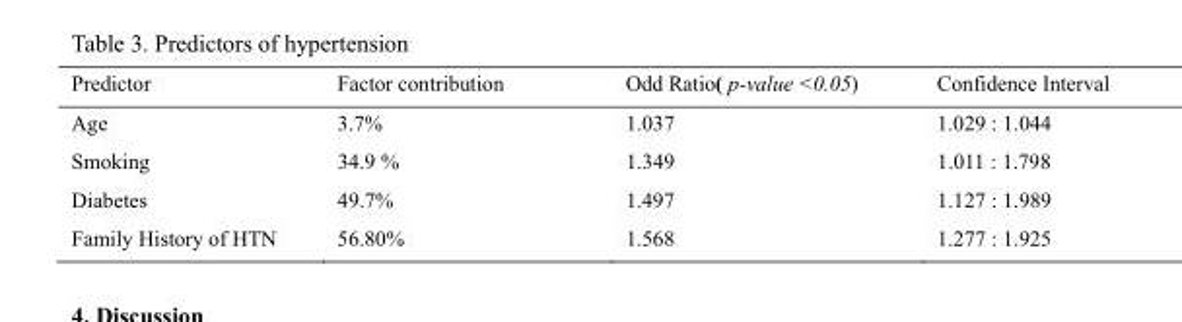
<table><thead><tr><td>Predictor</td><td>Factor contribution</td><td>Odd Ratio( p-value &lt;0.05)</td><td>Confidence Interval</td></tr></thead><tbody><tr><td>Age</td><td>3.7%</td><td>1.037</td><td>1.029 : 1.044</td></tr><tr><td>Smoking</td><td>34.9 %</td><td>1.349</td><td>1.011 : 1.798</td></tr><tr><td>Diabetes</td><td>49.7%</td><td>1.497</td><td>1.127 : 1.989</td></tr><tr><td>Family History of HTN</td><td>56.80%</td><td>1.568</td><td>1.277 : 1.925</td></tr></tbody></table>